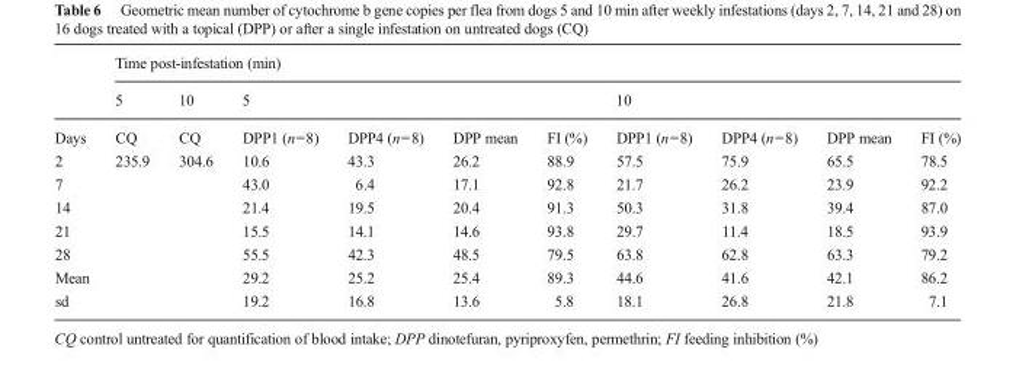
<table><thead><tr><td rowspan="3">Days</td><td colspan="10">Time post-infestation (min)</td></tr><tr><td rowspan="2">5 CQ</td><td rowspan="2">10 CQ</td><td colspan="4">5</td><td colspan="4">10</td></tr><tr><td>DPP1 (n=8)</td><td>DPP4 (n=8)</td><td>DPP mean</td><td>FI (%)</td><td>DPP1 (n=8)</td><td>DPP4 (n=8)</td><td>DPP mean</td><td>FI (%)</td></tr></thead><tbody><tr><td>2</td><td rowspan="5">235.9</td><td rowspan="5">304.6</td><td>10.6</td><td>43.3</td><td>26.2</td><td>88.9</td><td>57.5</td><td>75.9</td><td>65.5</td><td>78.5</td></tr><tr><td>7</td><td>43.0</td><td>6.4</td><td>17.1</td><td>92.8</td><td>21.7</td><td>26.2</td><td>23.9</td><td>92.2</td></tr><tr><td>14</td><td>21.4</td><td>19.5</td><td>20.4</td><td>91.3</td><td>50.3</td><td>31.8</td><td>39.4</td><td>87.0</td></tr><tr><td>21</td><td>15.5</td><td>14.1</td><td>14.6</td><td>93.8</td><td>29.7</td><td>11.4</td><td>18.5</td><td>93.9</td></tr><tr><td>28</td><td>55.5</td><td>42.3</td><td>48.5</td><td>79.5</td><td>63.8</td><td>62.8</td><td>63.3</td><td>79.2</td></tr><tr><td colspan="3">Mean</td><td>29.2</td><td>25.2</td><td>25.4</td><td>89.3</td><td>44.6</td><td>41.6</td><td>42.1</td><td>86.2</td></tr><tr><td colspan="3">sd</td><td>19.2</td><td>16.8</td><td>13.6</td><td>5.8</td><td>18.1</td><td>26.8</td><td>21.8</td><td>7.1</td></tr></tbody></table>